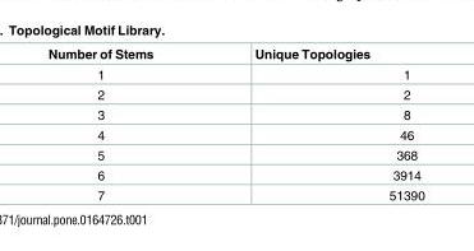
<table><thead><tr><td>Number of Stems</td><td>Unique Topologies</td></tr></thead><tbody><tr><td>1</td><td>1</td></tr><tr><td>2</td><td>2</td></tr><tr><td>3</td><td>8</td></tr><tr><td>4</td><td>46</td></tr><tr><td>5</td><td>368</td></tr><tr><td>6</td><td>3914</td></tr><tr><td>7</td><td>51390</td></tr></tbody></table>